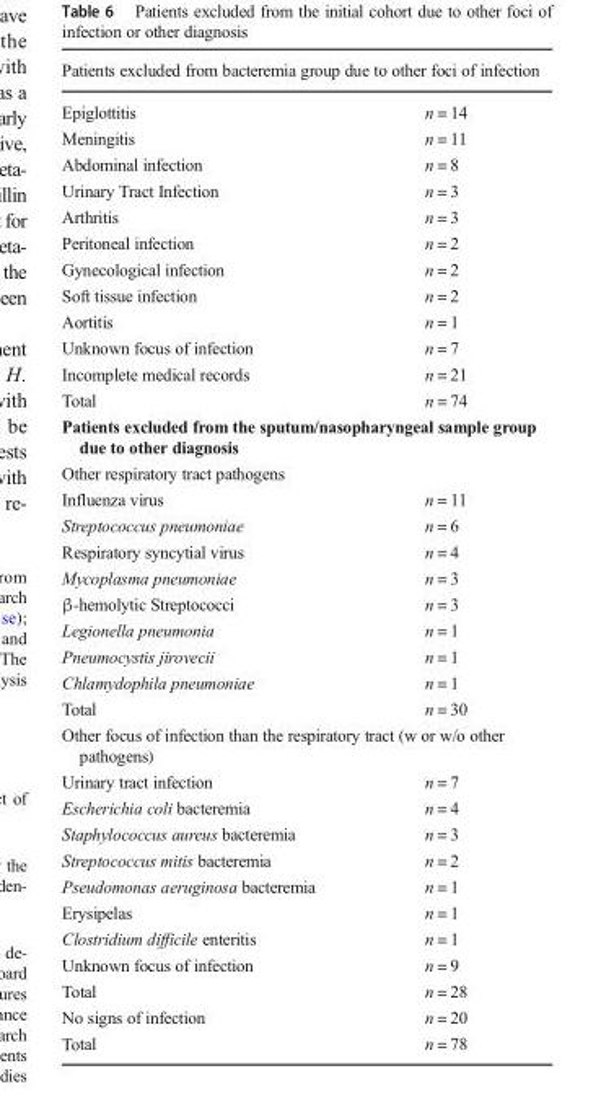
<table><thead><tr><td colspan="2">Patients excluded from bacteremia group due to other foci of infection</td></tr><tr><td>Epiglottitis</td><td>n = 14</td></tr></thead><tbody><tr><td>Meningitis</td><td>n = 11</td></tr><tr><td>Abdominal infection</td><td>n = 8</td></tr><tr><td>Urinary Tract Infection</td><td>n = 3</td></tr><tr><td>Arthritis</td><td>n = 3</td></tr><tr><td>Peritoneal infection</td><td>n = 2</td></tr><tr><td>Gynecological infection</td><td>n = 2</td></tr><tr><td>Soft tissue infection</td><td>n = 2</td></tr><tr><td>Aortitis</td><td>n = 1</td></tr><tr><td>Unknown focus of infection</td><td>n = 7</td></tr><tr><td>Incomplete medical records</td><td>n = 21</td></tr><tr><td>Total</td><td>n = 74</td></tr><tr><td colspan="2">Patients excluded from the sputum/nasopharyngeal sample group due to other diagnosis</td></tr><tr><td colspan="2">Other respiratory tract pathogens</td></tr><tr><td>Influenza virus</td><td>n = 11</td></tr><tr><td>Streptococcus pneumoniae</td><td>n = 6</td></tr><tr><td>Respiratory syncytial virus</td><td>n = 4</td></tr><tr><td>Mycoplasma pneumoniae</td><td>n = 3</td></tr><tr><td>β-hemolytic Streptococci</td><td>n = 3</td></tr><tr><td>Legionella pneumonia</td><td>n = 1</td></tr><tr><td>Pneumocystis jirovecii</td><td>n = 1</td></tr><tr><td>Chlamydophila pneumoniae</td><td>n = 1</td></tr><tr><td>Total</td><td>n = 30</td></tr><tr><td colspan="2">Other focus of infection than the respiratory tract (w or w/o other pathogens)</td></tr><tr><td>Urinary tract infection</td><td>n = 7</td></tr><tr><td>Escherichia coli bacteremia</td><td>n = 4</td></tr><tr><td>Staphylococcus aureus bacteremia</td><td>n = 3</td></tr><tr><td>Streptococcus mitis bacteremia</td><td>n = 2</td></tr><tr><td>Pseudomonas aeruginosa bacteremia</td><td>n = 1</td></tr><tr><td>Erysipelas</td><td>n = 1</td></tr><tr><td>Clostridium difficile enteritis</td><td>n = 1</td></tr><tr><td>Unknown focus of infection</td><td>n = 9</td></tr><tr><td>Total</td><td>n = 28</td></tr><tr><td>No signs of infection</td><td>n = 20</td></tr><tr><td>Total</td><td>n = 78</td></tr></tbody></table>